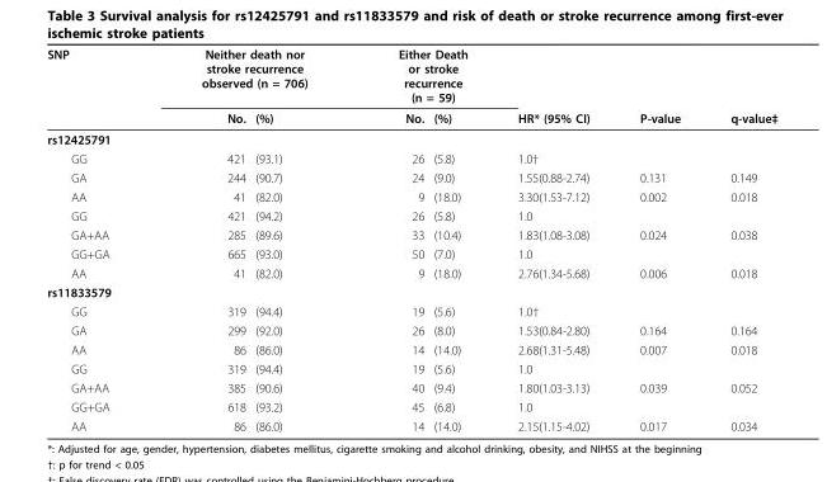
<table><thead><tr><td rowspan="2">SNP</td><td colspan="2">Neither death nor stroke recurrence observed (n = 706)</td><td colspan="2">Either Death or stroke recurrence (n = 59)</td><td rowspan="2">HR* (95% CI)</td><td rowspan="2">P-value</td><td rowspan="2">q-value‡</td></tr><tr><td>No.</td><td>(%)</td><td>No.</td><td>(%)</td></tr></thead><tbody><tr><td colspan="8">rs12425791</td></tr><tr><td>GG</td><td>421</td><td>(93.1)</td><td>26</td><td>(5.8)</td><td>1.0†</td><td></td><td></td></tr><tr><td>GA</td><td>244</td><td>(90.7)</td><td>24</td><td>(9.0)</td><td>1.55(0.88-2.74)</td><td>0.131</td><td>0.149</td></tr><tr><td>AA</td><td>41</td><td>(82.0)</td><td>9</td><td>(18.0)</td><td>3.30(1.53-7.12)</td><td>0.002</td><td>0.018</td></tr><tr><td>GG</td><td>421</td><td>(94.2)</td><td>26</td><td>(5.8)</td><td>1.0</td><td></td><td></td></tr><tr><td>GA+AA</td><td>285</td><td>(89.6)</td><td>33</td><td>(10.4)</td><td>1.83(1.08-3.08)</td><td>0.024</td><td>0.038</td></tr><tr><td>GG+GA</td><td>665</td><td>(93.0)</td><td>50</td><td>(7.0)</td><td>1.0</td><td></td><td></td></tr><tr><td>AA</td><td>41</td><td>(82.0)</td><td>9</td><td>(18.0)</td><td>2.76(1.34-5.68)</td><td>0.006</td><td>0.018</td></tr><tr><td colspan="8">rs11833579</td></tr><tr><td>GG</td><td>319</td><td>(94.4)</td><td>19</td><td>(5.6)</td><td>1.0†</td><td></td><td></td></tr><tr><td>GA</td><td>299</td><td>(92.0)</td><td>26</td><td>(8.0)</td><td>1.53(0.84-2.80)</td><td>0.164</td><td>0.164</td></tr><tr><td>AA</td><td>86</td><td>(86.0)</td><td>14</td><td>(14.0)</td><td>2.68(1.31-5.48)</td><td>0.007</td><td>0.018</td></tr><tr><td>GG</td><td>319</td><td>(94.4)</td><td>19</td><td>(5.6)</td><td>1.0</td><td></td><td></td></tr><tr><td>GA+AA</td><td>385</td><td>(90.6)</td><td>40</td><td>(9.4)</td><td>1.80(1.03-3.13)</td><td>0.039</td><td>0.052</td></tr><tr><td>GG+GA</td><td>618</td><td>(93.2)</td><td>45</td><td>(6.8)</td><td>1.0</td><td></td><td></td></tr><tr><td>AA</td><td>86</td><td>(86.0)</td><td>14</td><td>(14.0)</td><td>2.15(1.15-4.02)</td><td>0.017</td><td>0.034</td></tr></tbody></table>